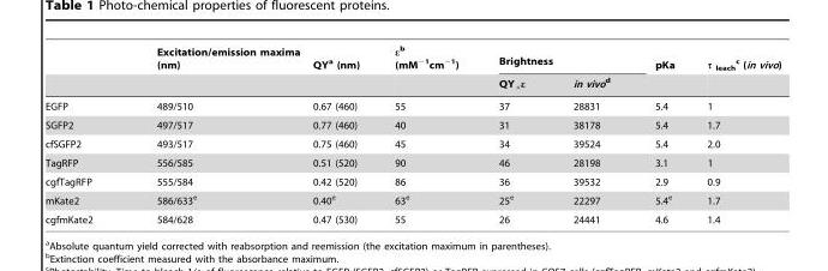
<table><thead><tr><td rowspan="2"></td><td rowspan="2">Excitation/emission maxima (nm)</td><td rowspan="2">QY<sup>a</sup> (nm)</td><td rowspan="2">ε<sup>b</sup> (mM<sup>−1</sup>cm<sup>−1</sup>)</td><td colspan="2">Brightness</td><td rowspan="2">pKa</td><td rowspan="2">τ <sub>leach</sub> c (in vivo)</td></tr><tr><td>QY<sub>×</sub>ε</td><td>in vivod</td></tr></thead><tbody><tr><td>EGFP</td><td>489/510</td><td>0.67 (460)</td><td>55</td><td>37</td><td>28831</td><td>5.4</td><td>1</td></tr><tr><td>SGFP2</td><td>497/517</td><td>0.77 (460)</td><td>40</td><td>31</td><td>38178</td><td>5.4</td><td>1.7</td></tr><tr><td>cfSGFP2</td><td>493/517</td><td>0.75 (460)</td><td>45</td><td>34</td><td>39524</td><td>5.4</td><td>2.0</td></tr><tr><td>TagRFP</td><td>556/585</td><td>0.51 (520)</td><td>90</td><td>46</td><td>28198</td><td>3.1</td><td>1</td></tr><tr><td>cgfTagRFP</td><td>555/584</td><td>0.42 (520)</td><td>86</td><td>36</td><td>39532</td><td>2.9</td><td>0.9</td></tr><tr><td>mKate2</td><td>586/633<sup>e</sup></td><td>0.40<sup>e</sup></td><td>63<sup>e</sup></td><td>25<sup>e</sup></td><td>22297</td><td>5.4<sup>e</sup></td><td>1.7</td></tr><tr><td>cgfmKate2</td><td>584/628</td><td>0.47 (530)</td><td>55</td><td>26</td><td>24441</td><td>4.6</td><td>1.4</td></tr></tbody></table>